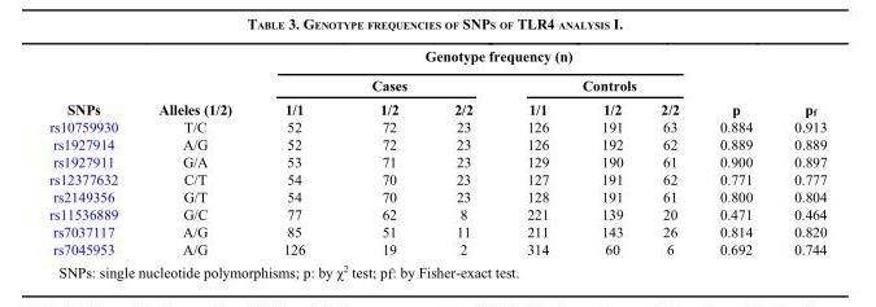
<table><thead><tr><td rowspan="3">SNPs</td><td rowspan="3">Alleles (1/2)</td><td colspan="6">Genotype frequency (n)</td><td rowspan="3">p</td><td rowspan="3">p<sub>f</sub></td></tr><tr><td colspan="3">Cases</td><td colspan="3">Controls</td></tr><tr><td>1/1</td><td>1/2</td><td>2/2</td><td>1/1</td><td>1/2</td><td>2/2</td></tr></thead><tbody><tr><td>rs10759930</td><td>T/C</td><td>52</td><td>72</td><td>23</td><td>126</td><td>191</td><td>63</td><td>0.884</td><td>0.913</td></tr><tr><td>rs1927914</td><td>A/G</td><td>52</td><td>72</td><td>23</td><td>126</td><td>192</td><td>62</td><td>0.889</td><td>0.889</td></tr><tr><td>rs1927911</td><td>G/A</td><td>53</td><td>71</td><td>23</td><td>129</td><td>190</td><td>61</td><td>0.900</td><td>0.897</td></tr><tr><td>rs12377632</td><td>C/T</td><td>54</td><td>70</td><td>23</td><td>127</td><td>191</td><td>62</td><td>0.771</td><td>0.777</td></tr><tr><td>rs2149356</td><td>G/T</td><td>54</td><td>70</td><td>23</td><td>128</td><td>191</td><td>61</td><td>0.800</td><td>0.804</td></tr><tr><td>rs11536889</td><td>G/C</td><td>77</td><td>62</td><td>8</td><td>221</td><td>139</td><td>20</td><td>0.471</td><td>0.464</td></tr><tr><td>rs7037117</td><td>A/G</td><td>85</td><td>51</td><td>11</td><td>211</td><td>143</td><td>26</td><td>0.814</td><td>0.820</td></tr><tr><td>rs7045953</td><td>A/G</td><td>126</td><td>19</td><td>2</td><td>314</td><td>60</td><td>6</td><td>0.692</td><td>0.744</td></tr></tbody></table>